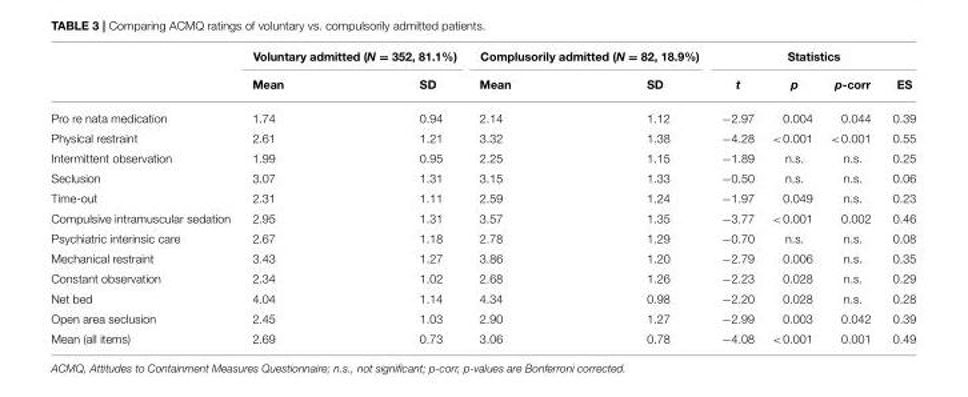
<table><thead><tr><td rowspan="2"></td><td colspan="2">Voluntary admitted (N = 352, 81.1%)</td><td colspan="2">Complusorily admitted (N = 82, 18.9%)</td><td colspan="4">Statistics</td></tr><tr><td>Mean</td><td>SD</td><td>Mean</td><td>SD</td><td>t</td><td>p</td><td>p-corr</td><td>ES</td></tr></thead><tbody><tr><td>Pro re nata medication</td><td>1.74</td><td>0.94</td><td>2.14</td><td>1.12</td><td>−2.97</td><td>0.004</td><td>0.044</td><td>0.39</td></tr><tr><td>Physical restraint</td><td>2.61</td><td>1.21</td><td>3.32</td><td>1.38</td><td>−4.28</td><td>&lt;0.001</td><td>&lt;0.001</td><td>0.55</td></tr><tr><td>Intermittent observation</td><td>1.99</td><td>0.95</td><td>2.25</td><td>1.15</td><td>−1.89</td><td>n.s.</td><td>n.s.</td><td>0.25</td></tr><tr><td>Seclusion</td><td>3.07</td><td>1.31</td><td>3.15</td><td>1.33</td><td>−0.50</td><td>n.s.</td><td>n.s.</td><td>0.06</td></tr><tr><td>Time-out</td><td>2.31</td><td>1.11</td><td>2.59</td><td>1.24</td><td>−1.97</td><td>0.049</td><td>n.s.</td><td>0.23</td></tr><tr><td>Compulsive intramuscular sedation</td><td>2.95</td><td>1.31</td><td>3.57</td><td>1.35</td><td>−3.77</td><td>&lt;0.001</td><td>0.002</td><td>0.46</td></tr><tr><td>Psychiatric interinsic care</td><td>2.67</td><td>1.18</td><td>2.78</td><td>1.29</td><td>−0.70</td><td>n.s.</td><td>n.s.</td><td>0.08</td></tr><tr><td>Mechanical restraint</td><td>3.43</td><td>1.27</td><td>3.86</td><td>1.20</td><td>−2.79</td><td>0.006</td><td>n.s.</td><td>0.35</td></tr><tr><td>Constant observation</td><td>2.34</td><td>1.02</td><td>2.68</td><td>1.26</td><td>−2.23</td><td>0.028</td><td>n.s.</td><td>0.29</td></tr><tr><td>Net bed</td><td>4.04</td><td>1.14</td><td>4.34</td><td>0.98</td><td>−2.20</td><td>0.028</td><td>n.s.</td><td>0.28</td></tr><tr><td>Open area seclusion</td><td>2.45</td><td>1.03</td><td>2.90</td><td>1.27</td><td>−2.99</td><td>0.003</td><td>0.042</td><td>0.39</td></tr><tr><td>Mean (all items)</td><td>2.69</td><td>0.73</td><td>3.06</td><td>0.78</td><td>−4.08</td><td>&lt;0.001</td><td>0.001</td><td>0.49</td></tr></tbody></table>